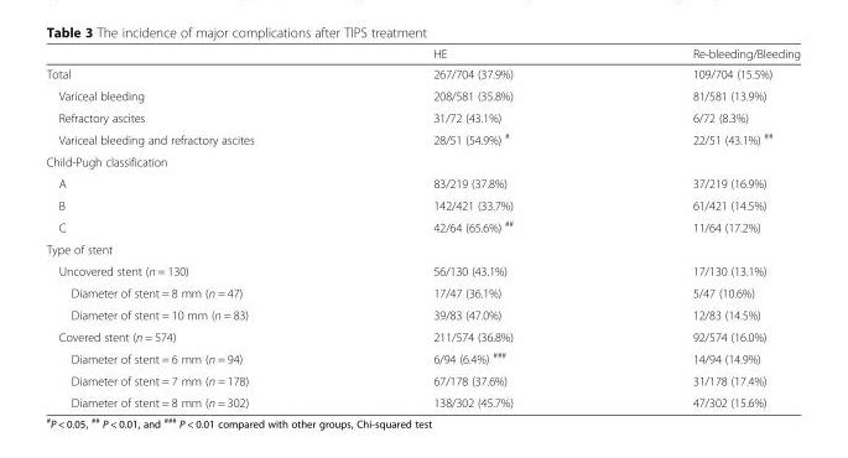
<table><thead><tr><td></td><td>HE</td><td>Re-bleeding/Bleeding</td></tr></thead><tbody><tr><td>Total</td><td>267/704 (37.9%)</td><td>109/704 (15.5%)</td></tr><tr><td>Variceal bleeding</td><td>208/581 (35.8%)</td><td>81/581 (13.9%)</td></tr><tr><td>Refractory ascites</td><td>31/72 (43.1%)</td><td>6/72 (8.3%)</td></tr><tr><td>Variceal bleeding and refractory ascites</td><td>28/51 (54.9%) <sup>#</sup></td><td>22/51 (43.1%) <sup>##</sup></td></tr><tr><td colspan="3">Child-Pugh classification</td></tr><tr><td>A</td><td>83/219 (37.8%)</td><td>37/219 (16.9%)</td></tr><tr><td>B</td><td>142/421 (33.7%)</td><td>61/421 (14.5%)</td></tr><tr><td>C</td><td>42/64 (65.6%) <sup>##</sup></td><td>11/64 (17.2%)</td></tr><tr><td colspan="3">Type of stent</td></tr><tr><td>Uncovered stent (n = 130)</td><td>56/130 (43.1%)</td><td>17/130 (13.1%)</td></tr><tr><td>Diameter of stent = 8 mm (n = 47)</td><td>17/47 (36.1%)</td><td>5/47 (10.6%)</td></tr><tr><td>Diameter of stent = 10 mm (n = 83)</td><td>39/83 (47.0%)</td><td>12/83 (14.5%)</td></tr><tr><td>Covered stent (n = 574)</td><td>211/574 (36.8%)</td><td>92/574 (16.0%)</td></tr><tr><td>Diameter of stent = 6 mm (n = 94)</td><td>6/94 (6.4%) <sup>###</sup></td><td>14/94 (14.9%)</td></tr><tr><td>Diameter of stent = 7 mm (n = 178)</td><td>67/178 (37.6%)</td><td>31/178 (17.4%)</td></tr><tr><td>Diameter of stent = 8 mm (n = 302)</td><td>138/302 (45.7%)</td><td>47/302 (15.6%)</td></tr></tbody></table>